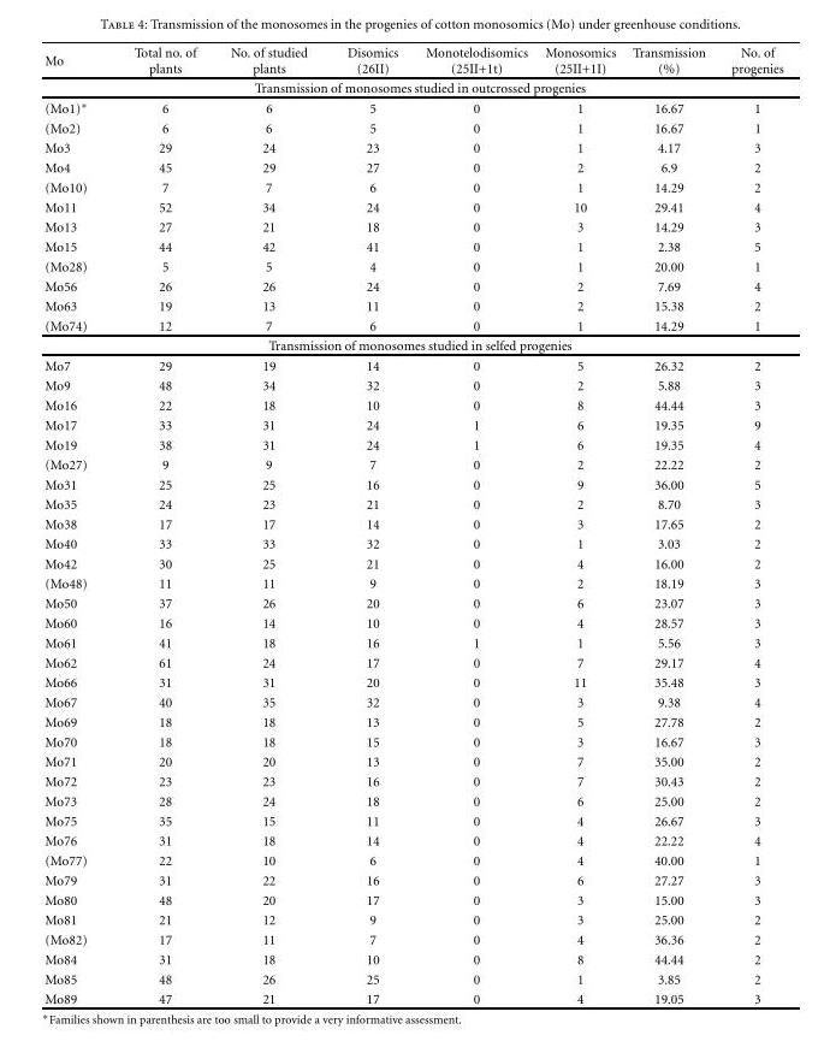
<table><thead><tr><td>Mo</td><td>Total no. of plants</td><td>No. of studied plants</td><td>Disomics (26II)</td><td>Monotelodisomics (25II+1t)</td><td>Monosomics (25II+1I)</td><td>Transmission (%)</td><td>No. of progenies</td></tr></thead><tbody><tr><td colspan="8">Transmission of monosomes studied in outcrossed progenies</td></tr><tr><td>(Mo1)∗</td><td>6</td><td>6</td><td>5</td><td>0</td><td>1</td><td>16.67</td><td>1</td></tr><tr><td>(Mo2)</td><td>6</td><td>6</td><td>5</td><td>0</td><td>1</td><td>16.67</td><td>1</td></tr><tr><td>Mo3</td><td>29</td><td>24</td><td>23</td><td>0</td><td>1</td><td>4.17</td><td>3</td></tr><tr><td>Mo4</td><td>45</td><td>29</td><td>27</td><td>0</td><td>2</td><td>6.9</td><td>2</td></tr><tr><td>(Mo10)</td><td>7</td><td>7</td><td>6</td><td>0</td><td>1</td><td>14.29</td><td>2</td></tr><tr><td>Mo11</td><td>52</td><td>34</td><td>24</td><td>0</td><td>10</td><td>29.41</td><td>4</td></tr><tr><td>Mo13</td><td>27</td><td>21</td><td>18</td><td>0</td><td>3</td><td>14.29</td><td>3</td></tr><tr><td>Mo15</td><td>44</td><td>42</td><td>41</td><td>0</td><td>1</td><td>2.38</td><td>5</td></tr><tr><td>(Mo28)</td><td>5</td><td>5</td><td>4</td><td>0</td><td>1</td><td>20.00</td><td>1</td></tr><tr><td>Mo56</td><td>26</td><td>26</td><td>24</td><td>0</td><td>2</td><td>7.69</td><td>4</td></tr><tr><td>Mo63</td><td>19</td><td>13</td><td>11</td><td>0</td><td>2</td><td>15.38</td><td>2</td></tr><tr><td>(Mo74)</td><td>12</td><td>7</td><td>6</td><td>0</td><td>1</td><td>14.29</td><td>1</td></tr><tr><td colspan="8">Transmission of monosomes studied in selfed progenies</td></tr><tr><td>Mo7</td><td>29</td><td>19</td><td>14</td><td>0</td><td>5</td><td>26.32</td><td>2</td></tr><tr><td>Mo9</td><td>48</td><td>34</td><td>32</td><td>0</td><td>2</td><td>5.88</td><td>3</td></tr><tr><td>Mo16</td><td>22</td><td>18</td><td>10</td><td>0</td><td>8</td><td>44.44</td><td>3</td></tr><tr><td>Mo17</td><td>33</td><td>31</td><td>24</td><td>1</td><td>6</td><td>19.35</td><td>9</td></tr><tr><td>Mo19</td><td>38</td><td>31</td><td>24</td><td>1</td><td>6</td><td>19.35</td><td>4</td></tr><tr><td>(Mo27)</td><td>9</td><td>9</td><td>7</td><td>0</td><td>2</td><td>22.22</td><td>2</td></tr><tr><td>Mo31</td><td>25</td><td>25</td><td>16</td><td>0</td><td>9</td><td>36.00</td><td>5</td></tr><tr><td>Mo35</td><td>24</td><td>23</td><td>21</td><td>0</td><td>2</td><td>8.70</td><td>3</td></tr><tr><td>Mo38</td><td>17</td><td>17</td><td>14</td><td>0</td><td>3</td><td>17.65</td><td>2</td></tr><tr><td>Mo40</td><td>33</td><td>33</td><td>32</td><td>0</td><td>1</td><td>3.03</td><td>2</td></tr><tr><td>Mo42</td><td>30</td><td>25</td><td>21</td><td>0</td><td>4</td><td>16.00</td><td>2</td></tr><tr><td>(Mo48)</td><td>11</td><td>11</td><td>9</td><td>0</td><td>2</td><td>18.19</td><td>3</td></tr><tr><td>Mo50</td><td>37</td><td>26</td><td>20</td><td>0</td><td>6</td><td>23.07</td><td>3</td></tr><tr><td>Mo60</td><td>16</td><td>14</td><td>10</td><td>0</td><td>4</td><td>28.57</td><td>3</td></tr><tr><td>Mo61</td><td>41</td><td>18</td><td>16</td><td>1</td><td>1</td><td>5.56</td><td>3</td></tr><tr><td>Mo62</td><td>61</td><td>24</td><td>17</td><td>0</td><td>7</td><td>29.17</td><td>4</td></tr><tr><td>Mo66</td><td>31</td><td>31</td><td>20</td><td>0</td><td>11</td><td>35.48</td><td>3</td></tr><tr><td>Mo67</td><td>40</td><td>35</td><td>32</td><td>0</td><td>3</td><td>9.38</td><td>4</td></tr><tr><td>Mo69</td><td>18</td><td>18</td><td>13</td><td>0</td><td>5</td><td>27.78</td><td>2</td></tr><tr><td>Mo70</td><td>18</td><td>18</td><td>15</td><td>0</td><td>3</td><td>16.67</td><td>3</td></tr><tr><td>Mo71</td><td>20</td><td>20</td><td>13</td><td>0</td><td>7</td><td>35.00</td><td>2</td></tr><tr><td>Mo72</td><td>23</td><td>23</td><td>16</td><td>0</td><td>7</td><td>30.43</td><td>2</td></tr><tr><td>Mo73</td><td>28</td><td>24</td><td>18</td><td>0</td><td>6</td><td>25.00</td><td>2</td></tr><tr><td>Mo75</td><td>35</td><td>15</td><td>11</td><td>0</td><td>4</td><td>26.67</td><td>3</td></tr><tr><td>Mo76</td><td>31</td><td>18</td><td>14</td><td>0</td><td>4</td><td>22.22</td><td>4</td></tr><tr><td>(Mo77)</td><td>22</td><td>10</td><td>6</td><td>0</td><td>4</td><td>40.00</td><td>1</td></tr><tr><td>Mo79</td><td>31</td><td>22</td><td>16</td><td>0</td><td>6</td><td>27.27</td><td>3</td></tr><tr><td>Mo80</td><td>48</td><td>20</td><td>17</td><td>0</td><td>3</td><td>15.00</td><td>3</td></tr><tr><td>Mo81</td><td>21</td><td>12</td><td>9</td><td>0</td><td>3</td><td>25.00</td><td>2</td></tr><tr><td>(Mo82)</td><td>17</td><td>11</td><td>7</td><td>0</td><td>4</td><td>36.36</td><td>2</td></tr><tr><td>Mo84</td><td>31</td><td>18</td><td>10</td><td>0</td><td>8</td><td>44.44</td><td>2</td></tr><tr><td>Mo85</td><td>48</td><td>26</td><td>25</td><td>0</td><td>1</td><td>3.85</td><td>2</td></tr><tr><td>Mo89</td><td>47</td><td>21</td><td>17</td><td>0</td><td>4</td><td>19.05</td><td>3</td></tr></tbody></table>